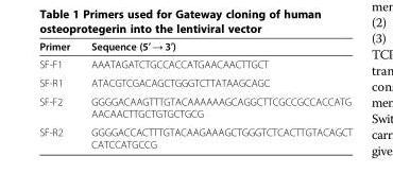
<table><thead><tr><td>Primer</td><td>Sequence (5′ → 3′)</td></tr></thead><tbody><tr><td>SF-F1</td><td>AAATAGATCTGCCACCATGAACAACTTGCT</td></tr><tr><td>SF-R1</td><td>ATACGTCGACAGCTGGGTCTTATAAGCAGC</td></tr><tr><td>SF-F2</td><td>GGGGACAAGTTTGTACAAAAAAGCAGGCTTCGCCGCCACCATG AACAACTTGCTGTGCTGCG</td></tr><tr><td>SF-R2</td><td>GGGGACCACTTTGTACAAGAAAGCTGGGTCTCACTTGTACAGCT CATCCATGCCG</td></tr></tbody></table>